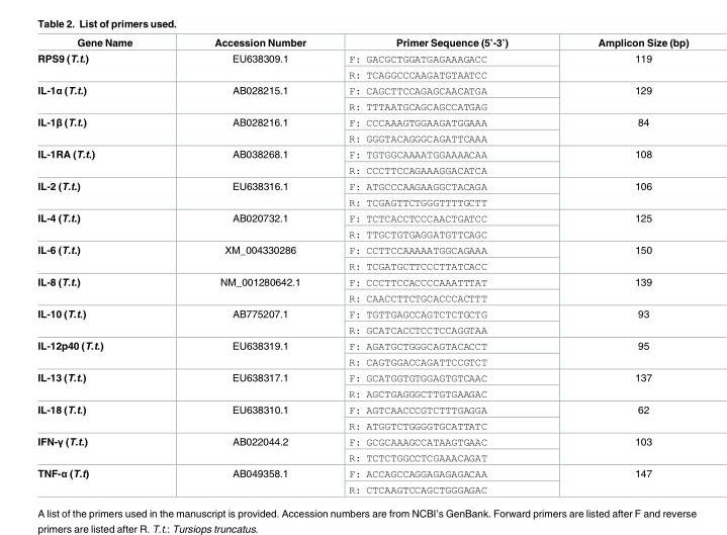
<table><thead><tr><td>Gene Name</td><td>Accession Number</td><td>Primer Sequence (5’-3’)</td><td>Amplicon Size (bp)</td></tr></thead><tbody><tr><td rowspan="2">RPS9 (T.t.)</td><td rowspan="2">EU638309.1</td><td>F: GACGCTGGATGAGAAAGACC</td><td rowspan="2">119</td></tr><tr><td>R: TCAGGCCCAAGATGTAATCC</td></tr><tr><td rowspan="2">IL-1α (T.t.)</td><td rowspan="2">AB028215.1</td><td>F: CAGCTTCCAGAGCAACATGA</td><td rowspan="2">129</td></tr><tr><td>R: TTTAATGCAGCAGCCATGAG</td></tr><tr><td rowspan="2">IL-1β (T.t.)</td><td rowspan="2">AB028216.1</td><td>F: CCCAAAGTGGAAGATGGAAA</td><td rowspan="2">84</td></tr><tr><td>R: GGGTACAGGGCAGATTCAAA</td></tr><tr><td rowspan="2">IL-1RA (T.t.)</td><td rowspan="2">AB038268.1</td><td>F: TGTGGCAAAATGGAAAACAA</td><td rowspan="2">108</td></tr><tr><td>R: CCCTTCCAGAAAGGACATCA</td></tr><tr><td rowspan="2">IL-2 (T.t.)</td><td rowspan="2">EU638316.1</td><td>F: ATGCCCAAGAAGGCTACAGA</td><td rowspan="2">106</td></tr><tr><td>R: TCGAGTTCTGGGTTTTGCTT</td></tr><tr><td rowspan="2">IL-4 (T.t.)</td><td rowspan="2">AB020732.1</td><td>F: TCTCACCTCCCAACTGATCC</td><td rowspan="2">125</td></tr><tr><td>R: TTGCTGTGAGGATGTTCAGC</td></tr><tr><td rowspan="2">IL-6 (T.t.)</td><td rowspan="2">XM_004330286</td><td>F: CCTTCCAAAAATGGCAGAAA</td><td rowspan="2">150</td></tr><tr><td>R: TCGATGCTTCCCTTATCACC</td></tr><tr><td rowspan="2">IL-8 (T.t.)</td><td rowspan="2">NM_001280642.1</td><td>F: CCCTTCCACCCCAAATTTAT</td><td rowspan="2">139</td></tr><tr><td>R: CAACCTTCTGCACCCACTTT</td></tr><tr><td rowspan="2">IL-10 (T.t.)</td><td rowspan="2">AB775207.1</td><td>F: TGTTGAGCCAGTCTCTGCTG</td><td rowspan="2">93</td></tr><tr><td>R: GCATCACCTCCTCCAGGTAA</td></tr><tr><td rowspan="2">IL-12p40 (T.t.)</td><td rowspan="2">EU638319.1</td><td>F: AGATGCTGGGCAGTACACCT</td><td rowspan="2">95</td></tr><tr><td>R: CAGTGGACCAGATTCCGTCT</td></tr><tr><td rowspan="2">IL-13 (T.t.)</td><td rowspan="2">EU638317.1</td><td>F: GCATGGTGTGGAGTGTCAAC</td><td rowspan="2">137</td></tr><tr><td>R: AGCTGAGGGCTTGTGAAGAC</td></tr><tr><td rowspan="2">IL-18 (T.t.)</td><td rowspan="2">EU638310.1</td><td>F: AGTCAACCCGTCTTTGAGGA</td><td rowspan="2">62</td></tr><tr><td>R: ATGGTCTGGGGTGCATTATC</td></tr><tr><td rowspan="2">IFN-γ (T.t.)</td><td rowspan="2">AB022044.2</td><td>F: GCGCAAAGCCATAAGTGAAC</td><td rowspan="2">103</td></tr><tr><td>R: TCTCTGGCCTCGAAACAGAT</td></tr><tr><td rowspan="2">TNF-α (T.t)</td><td rowspan="2">AB049358.1</td><td>F: ACCAGCCAGGAGAGAGACAA</td><td rowspan="2">147</td></tr><tr><td>R: CTCAAGTCCAGCTGGGAGAC</td></tr></tbody></table>